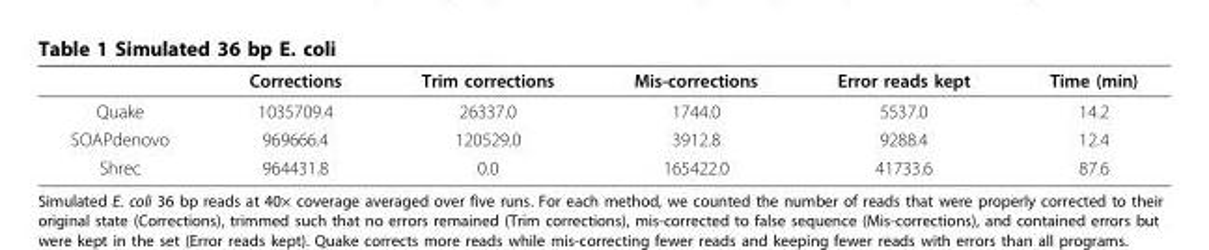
<table><thead><tr><td></td><td>Corrections</td><td>Trim corrections</td><td>Mis-corrections</td><td>Error reads kept</td><td>Time (min)</td></tr></thead><tbody><tr><td>Quake</td><td>1035709.4</td><td>26337.0</td><td>1744.0</td><td>5537.0</td><td>14.2</td></tr><tr><td>SOAPdenovo</td><td>969666.4</td><td>120529.0</td><td>3912.8</td><td>9288.4</td><td>12.4</td></tr><tr><td>Shrec</td><td>964431.8</td><td>0.0</td><td>165422.0</td><td>41733.6</td><td>87.6</td></tr></tbody></table>